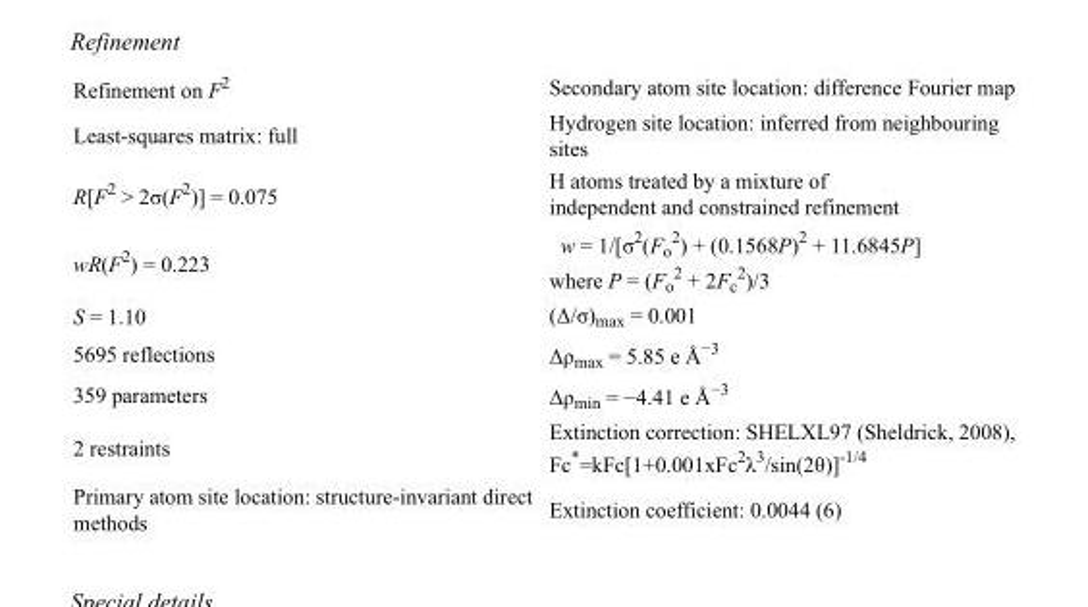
<table><tbody><tr><td>Refinement on F<sup>2</sup></td><td>Secondary atom site location: difference Fourier map</td></tr><tr><td>Least-squares matrix: full</td><td>Hydrogen site location: inferred from neighbouring sites</td></tr><tr><td>R[F<sup>2</sup> &gt; 2σ(F<sup>2</sup>)] = 0.075</td><td>H atoms treated by a mixture of independent and constrained refinement</td></tr><tr><td>wR(F<sup>2</sup>) = 0.223</td><td>w = 1/[σ<sup>2</sup>(F<sub>o</sub> <sup>2</sup>) + (0.1568P)<sup>2</sup> + 11.6845P] where P = (F<sub>o</sub> <sup>2</sup> + 2F<sub>c</sub> <sup>2</sup>)/3</td></tr><tr><td>S = 1.10</td><td>(Δ/σ)<sub>max</sub> = 0.001</td></tr><tr><td>5695 reflections</td><td>Δρ<sub>max</sub> = 5.85 e Å<sup>−3</sup></td></tr><tr><td>359 parameters</td><td>Δρ<sub>min</sub> = −4.41 e Å<sup>−3</sup></td></tr><tr><td>2 restraints</td><td>Extinction correction: SHELXL97 (Sheldrick, 2008), Fc*=kFc[1+0.001xFc<sup>2</sup>λ<sup>3</sup>/sin(2θ)]<sup>-1/4</sup></td></tr><tr><td>Primary atom site location: structure-invariant direct methods</td><td>Extinction coefficient: 0.0044 (6)</td></tr></tbody></table>